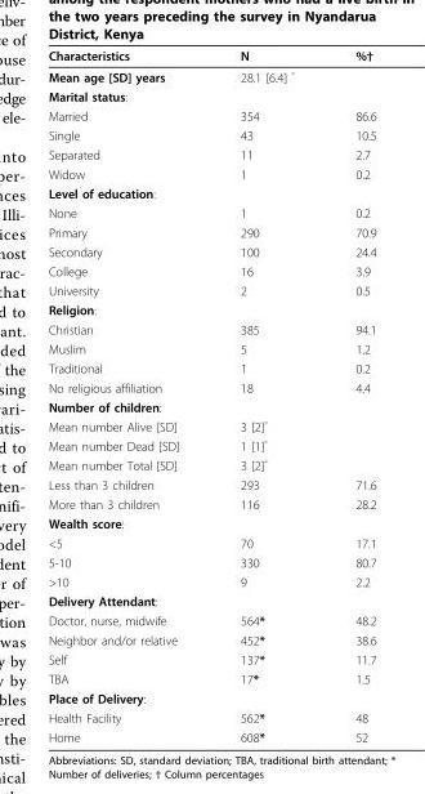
<table><thead><tr><td>Characteristics</td><td>N</td><td>%†</td></tr></thead><tbody><tr><td>Mean age [SD] years</td><td>28.1 [6.4] <sup>◦</sup></td><td></td></tr><tr><td colspan="3">Marital status:</td></tr><tr><td>Married</td><td>354</td><td>86.6</td></tr><tr><td>Single</td><td>43</td><td>10.5</td></tr><tr><td>Separated</td><td>11</td><td>2.7</td></tr><tr><td>Widow</td><td>1</td><td>0.2</td></tr><tr><td colspan="3">Level of education:</td></tr><tr><td>None</td><td>1</td><td>0.2</td></tr><tr><td>Primary</td><td>290</td><td>70.9</td></tr><tr><td>Secondary</td><td>100</td><td>24.4</td></tr><tr><td>College</td><td>16</td><td>3.9</td></tr><tr><td>University</td><td>2</td><td>0.5</td></tr><tr><td colspan="3">Religion:</td></tr><tr><td>Christian</td><td>385</td><td>94.1</td></tr><tr><td>Muslim</td><td>5</td><td>1.2</td></tr><tr><td>Traditional</td><td>1</td><td>0.2</td></tr><tr><td>No religious affiliation</td><td>18</td><td>4.4</td></tr><tr><td colspan="3">Number of children:</td></tr><tr><td>Mean number Alive [SD]</td><td>3 [2]<sup>◦</sup></td><td></td></tr><tr><td>Mean number Dead [SD]</td><td>1 [1]<sup>◦</sup></td><td></td></tr><tr><td>Mean number Total [SD]</td><td>3 [2]<sup>◦</sup></td><td></td></tr><tr><td>Less than 3 children</td><td>293</td><td>71.6</td></tr><tr><td>More than 3 children</td><td>116</td><td>28.2</td></tr><tr><td colspan="3">Wealth score:</td></tr><tr><td>&lt;5</td><td>70</td><td>17.1</td></tr><tr><td>5-10</td><td>330</td><td>80.7</td></tr><tr><td>&gt;10</td><td>9</td><td>2.2</td></tr><tr><td colspan="3">Delivery Attendant:</td></tr><tr><td>Doctor, nurse, midwife</td><td>564*</td><td>48.2</td></tr><tr><td>Neighbor and/or relative</td><td>452*</td><td>38.6</td></tr><tr><td>Self</td><td>137*</td><td>11.7</td></tr><tr><td>TBA</td><td>17*</td><td>1.5</td></tr><tr><td colspan="3">Place of Delivery:</td></tr><tr><td>Health Facility</td><td>562*</td><td>48</td></tr><tr><td>Home</td><td>608*</td><td>52</td></tr></tbody></table>